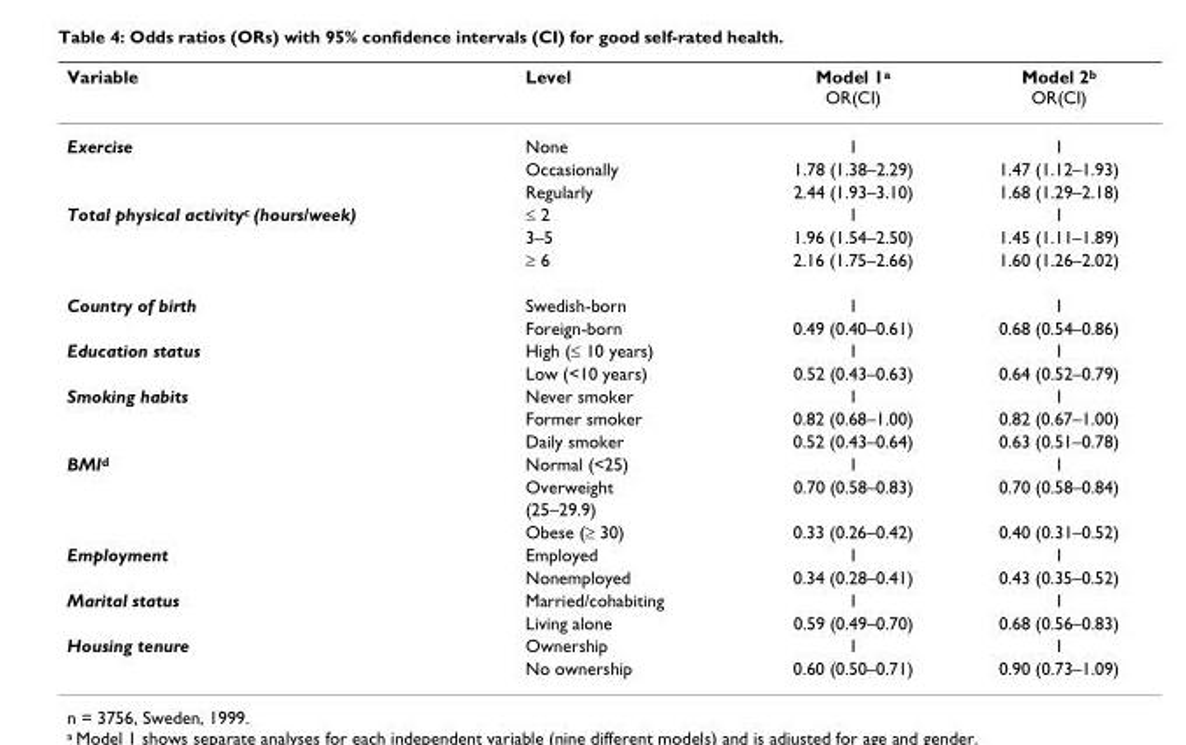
<table><thead><tr><td>Variable</td><td>Level</td><td>Model 1<sup>a</sup> OR(CI)</td><td>Model 2<sup>b</sup> OR(CI)</td></tr></thead><tbody><tr><td rowspan="3">Exercise</td><td>None</td><td>1</td><td>1</td></tr><tr><td>Occasionally</td><td>1.78 (1.38–2.29)</td><td>1.47 (1.12–1.93)</td></tr><tr><td>Regularly</td><td>2.44 (1.93–3.10)</td><td>1.68 (1.29–2.18)</td></tr><tr><td rowspan="3">Total physical activity<sup>c</sup> (hours/week)</td><td>≤ 2</td><td>1</td><td>1</td></tr><tr><td>3–5</td><td>1.96 (1.54–2.50)</td><td>1.45 (1.11–1.89)</td></tr><tr><td>≥ 6</td><td>2.16 (1.75–2.66)</td><td>1.60 (1.26–2.02)</td></tr><tr><td rowspan="2">Country of birth</td><td>Swedish-born</td><td>1</td><td>1</td></tr><tr><td>Foreign-born</td><td>0.49 (0.40–0.61)</td><td>0.68 (0.54–0.86)</td></tr><tr><td rowspan="2">Education status</td><td>High (≤ 10 years)</td><td>1</td><td>1</td></tr><tr><td>Low (&lt;10 years)</td><td>0.52 (0.43–0.63)</td><td>0.64 (0.52–0.79)</td></tr><tr><td rowspan="3">Smoking habits</td><td>Never smoker</td><td>1</td><td>1</td></tr><tr><td>Former smoker</td><td>0.82 (0.68–1.00)</td><td>0.82 (0.67–1.00)</td></tr><tr><td>Daily smoker</td><td>0.52 (0.43–0.64)</td><td>0.63 (0.51–0.78)</td></tr><tr><td rowspan="4">BMI<sup>d</sup></td><td>Normal (&lt;25)</td><td>1</td><td>1</td></tr><tr><td>Overweight</td><td>0.70 (0.58–0.83)</td><td>0.70 (0.58–0.84)</td></tr><tr><td>(25–29.9)</td><td></td><td></td></tr><tr><td>Obese (≥ 30)</td><td>0.33 (0.26–0.42)</td><td>0.40 (0.31–0.52)</td></tr><tr><td rowspan="2">Employment</td><td>Employed</td><td>1</td><td>1</td></tr><tr><td>Nonemployed</td><td>0.34 (0.28–0.41)</td><td>0.43 (0.35–0.52)</td></tr><tr><td rowspan="2">Marital status</td><td>Married/cohabiting</td><td>1</td><td>1</td></tr><tr><td>Living alone</td><td>0.59 (0.49–0.70)</td><td>0.68 (0.56–0.83)</td></tr><tr><td rowspan="2">Housing tenure</td><td>Ownership</td><td>1</td><td>1</td></tr><tr><td>No ownership</td><td>0.60 (0.50–0.71)</td><td>0.90 (0.73–1.09)</td></tr></tbody></table>